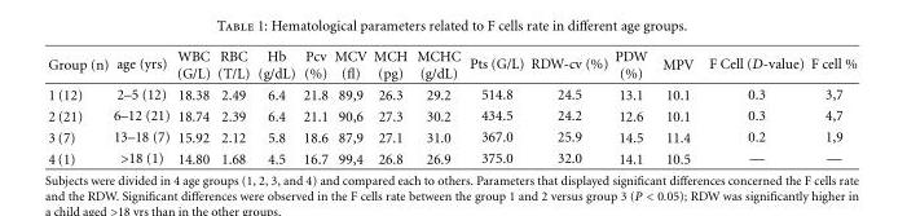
<table><thead><tr><td>Group (n)</td><td>age (yrs)</td><td>WBC (G/L)</td><td>RBC (T/L)</td><td>Hb (g/dL)</td><td>Pcv (%)</td><td>MCV (fl)</td><td>MCH (pg)</td><td>MCHC (g/dL)</td><td>Pts (G/L)</td><td>RDW-cv (%)</td><td>PDW (%)</td><td>MPV</td><td>F Cell (D-value)</td><td>F cell %</td></tr></thead><tbody><tr><td>1 (12)</td><td>2–5 (12)</td><td>18.38</td><td>2.49</td><td>6.4</td><td>21.8</td><td>89,9</td><td>26.3</td><td>29.2</td><td>514.8</td><td>24.5</td><td>13.1</td><td>10.1</td><td>0.3</td><td>3,7</td></tr><tr><td>2 (21)</td><td>6–12 (21)</td><td>18.74</td><td>2.39</td><td>6.4</td><td>21.1</td><td>90,6</td><td>27.3</td><td>30.2</td><td>434.5</td><td>24.2</td><td>12.6</td><td>10.1</td><td>0.3</td><td>4,7</td></tr><tr><td>3(7)</td><td>13–18 (7)</td><td>15.92</td><td>2.12</td><td>5.8</td><td>18.6</td><td>87,9</td><td>27.1</td><td>31.0</td><td>367.0</td><td>25.9</td><td>14.5</td><td>11.4</td><td>0.2</td><td>1,9</td></tr><tr><td>4(1)</td><td>&gt;18 (1)</td><td>14.80</td><td>1.68</td><td>4.5</td><td>16.7</td><td>99,4</td><td>26.8</td><td>26.9</td><td>375.0</td><td>32.0</td><td>14.1</td><td>10.5</td><td>—</td><td>—</td></tr></tbody></table>